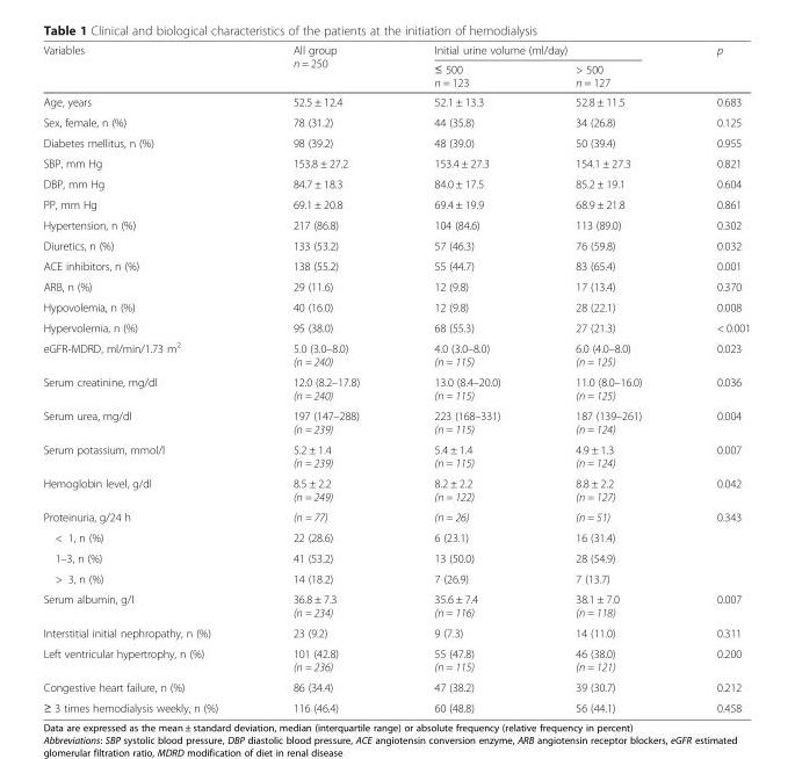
<table><thead><tr><td rowspan="2">Variables</td><td rowspan="2">All group n = 250</td><td colspan="2">Initial urine volume (ml/day)</td><td rowspan="2">p</td></tr><tr><td>≤ 500 n = 123</td><td>&gt; 500 n = 127</td></tr></thead><tbody><tr><td>Age, years</td><td>52.5 ± 12.4</td><td>52.1 ± 13.3</td><td>52.8 ± 11.5</td><td>0.683</td></tr><tr><td>Sex, female, n (%)</td><td>78 (31.2)</td><td>44 (35.8)</td><td>34 (26.8)</td><td>0.125</td></tr><tr><td>Diabetes mellitus, n (%)</td><td>98 (39.2)</td><td>48 (39.0)</td><td>50 (39.4)</td><td>0.955</td></tr><tr><td>SBP, mm Hg</td><td>153.8 ± 27.2</td><td>153.4 ± 27.3</td><td>154.1 ± 27.3</td><td>0.821</td></tr><tr><td>DBP, mm Hg</td><td>84.7 ± 18.3</td><td>84.0 ± 17.5</td><td>85.2 ± 19.1</td><td>0.604</td></tr><tr><td>PP, mm Hg</td><td>69.1 ± 20.8</td><td>69.4 ± 19.9</td><td>68.9 ± 21.8</td><td>0.861</td></tr><tr><td>Hypertension, n (%)</td><td>217 (86.8)</td><td>104 (84.6)</td><td>113 (89.0)</td><td>0.302</td></tr><tr><td>Diuretics, n (%)</td><td>133 (53.2)</td><td>57 (46.3)</td><td>76 (59.8)</td><td>0.032</td></tr><tr><td>ACE inhibitors, n (%)</td><td>138 (55.2)</td><td>55 (44.7)</td><td>83 (65.4)</td><td>0.001</td></tr><tr><td>ARB, n (%)</td><td>29 (11.6)</td><td>12 (9.8)</td><td>17 (13.4)</td><td>0.370</td></tr><tr><td>Hypovolemia, n (%)</td><td>40 (16.0)</td><td>12 (9.8)</td><td>28 (22.1)</td><td>0.008</td></tr><tr><td>Hypervolemia, n (%)</td><td>95 (38.0)</td><td>68 (55.3)</td><td>27 (21.3)</td><td>&lt; 0.001</td></tr><tr><td>eGFR-MDRD, ml/min/1.73 m<sup>2</sup></td><td>5.0 (3.0–8.0) (n = 240)</td><td>4.0 (3.0–8.0) (n = 115)</td><td>6.0 (4.0–8.0) (n = 125)</td><td>0.023</td></tr><tr><td>Serum creatinine, mg/dl</td><td>12.0 (8.2–17.8) (n = 240)</td><td>13.0 (8.4–20.0) (n = 115)</td><td>11.0 (8.0–16.0) (n = 125)</td><td>0.036</td></tr><tr><td>Serum urea, mg/dl</td><td>197 (147–288) (n = 239)</td><td>223 (168–331) (n = 115)</td><td>187 (139–261) (n = 124)</td><td>0.004</td></tr><tr><td>Serum potassium, mmol/l</td><td>5.2 ± 1.4 (n = 239)</td><td>5.4 ± 1.4 (n = 115)</td><td>4.9 ± 1.3 (n = 124)</td><td>0.007</td></tr><tr><td>Hemoglobin level, g/dl</td><td>8.5 ± 2.2 (n = 249)</td><td>8.2 ± 2.2 (n = 122)</td><td>8.8 ± 2.2 (n = 127)</td><td>0.042</td></tr><tr><td>Proteinuria, g/24 h</td><td>(n = 77)</td><td>(n = 26)</td><td>(n = 51)</td><td>0.343</td></tr><tr><td>&lt; 1, n (%)</td><td>22 (28.6)</td><td>6 (23.1)</td><td>16 (31.4)</td><td></td></tr><tr><td>1–3, n (%)</td><td>41 (53.2)</td><td>13 (50.0)</td><td>28 (54.9)</td><td></td></tr><tr><td>&gt; 3, n (%)</td><td>14 (18.2)</td><td>7 (26.9)</td><td>7 (13.7)</td><td></td></tr><tr><td>Serum albumin, g/l</td><td>36.8 ± 7.3 (n = 234)</td><td>35.6 ± 7.4 (n = 116)</td><td>38.1 ± 7.0 (n = 118)</td><td>0.007</td></tr><tr><td>Interstitial initial nephropathy, n (%)</td><td>23 (9.2)</td><td>9 (7.3)</td><td>14 (11.0)</td><td>0.311</td></tr><tr><td>Left ventricular hypertrophy, n (%)</td><td>101 (42.8) (n = 236)</td><td>55 (47.8) (n = 115)</td><td>46 (38.0) (n = 121)</td><td>0.200</td></tr><tr><td>Congestive heart failure, n (%)</td><td>86 (34.4)</td><td>47 (38.2)</td><td>39 (30.7)</td><td>0.212</td></tr><tr><td>≥ 3 times hemodialysis weekly, n (%)</td><td>116 (46.4)</td><td>60 (48.8)</td><td>56 (44.1)</td><td>0.458</td></tr></tbody></table>